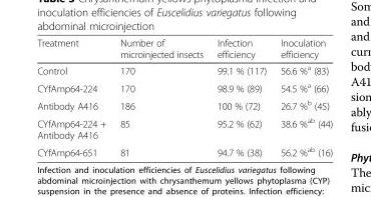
<table><thead><tr><td>Treatment</td><td>Number of microinjected insects</td><td>Infection efficiency</td><td>Inoculation efficiency</td></tr></thead><tbody><tr><td>Control</td><td>170</td><td>99.1 % (117)</td><td>56.6 %<sup>a</sup> (83)</td></tr><tr><td>CYfAmp64-224</td><td>170</td><td>98.9 % (89)</td><td>54.5 %<sup>a</sup> (66)</td></tr><tr><td>Antibody A416</td><td>186</td><td>100 % (72)</td><td>26.7 %<sup>b</sup> (45)</td></tr><tr><td>CYfAmp64-224 + Antibody A416</td><td>85</td><td>95.2 % (62)</td><td>38.6 %<sup>ab</sup> (44)</td></tr><tr><td>CYfAmp64-651</td><td>81</td><td>94.7 % (38)</td><td>56.2 %<sup>ab</sup> (16)</td></tr></tbody></table>